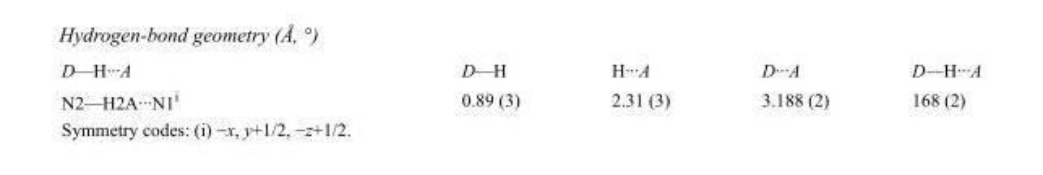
<table><tbody><tr><td>D—H···A</td><td>D—H</td><td>H···A</td><td>D···A</td><td>D—H···A</td></tr><tr><td>N2—H2A···N1<sup>i</sup></td><td>0.89 (3)</td><td>2.31 (3)</td><td>3.188 (2)</td><td>168 (2)</td></tr></tbody></table>